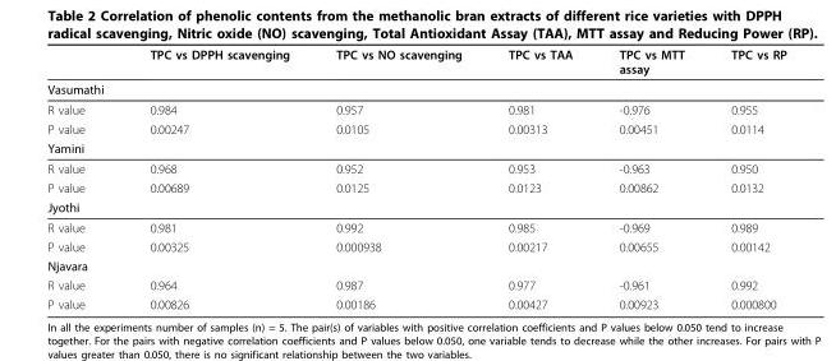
<table><thead><tr><td></td><td>TPC vs DPPH scavenging</td><td>TPC vs NO scavenging</td><td>TPC vs TAA</td><td>TPC vs MTT assay</td><td>TPC vs RP</td></tr></thead><tbody><tr><td colspan="6">Vasumathi</td></tr><tr><td>R value</td><td>0.984</td><td>0.957</td><td>0.981</td><td>-0.976</td><td>0.955</td></tr><tr><td>P value</td><td>0.00247</td><td>0.0105</td><td>0.00313</td><td>0.00451</td><td>0.0114</td></tr><tr><td colspan="6">Yamini</td></tr><tr><td>R value</td><td>0.968</td><td>0.952</td><td>0.953</td><td>-0.963</td><td>0.950</td></tr><tr><td>P value</td><td>0.00689</td><td>0.0125</td><td>0.0123</td><td>0.00862</td><td>0.0132</td></tr><tr><td colspan="6">Jyothi</td></tr><tr><td>R value</td><td>0.981</td><td>0.992</td><td>0.985</td><td>-0.969</td><td>0.989</td></tr><tr><td>P value</td><td>0.00325</td><td>0.000938</td><td>0.00217</td><td>0.00655</td><td>0.00142</td></tr><tr><td colspan="6">Njavara</td></tr><tr><td>R value</td><td>0.964</td><td>0.987</td><td>0.977</td><td>-0.961</td><td>0.992</td></tr><tr><td>P value</td><td>0.00826</td><td>0.00186</td><td>0.00427</td><td>0.00923</td><td>0.000800</td></tr></tbody></table>